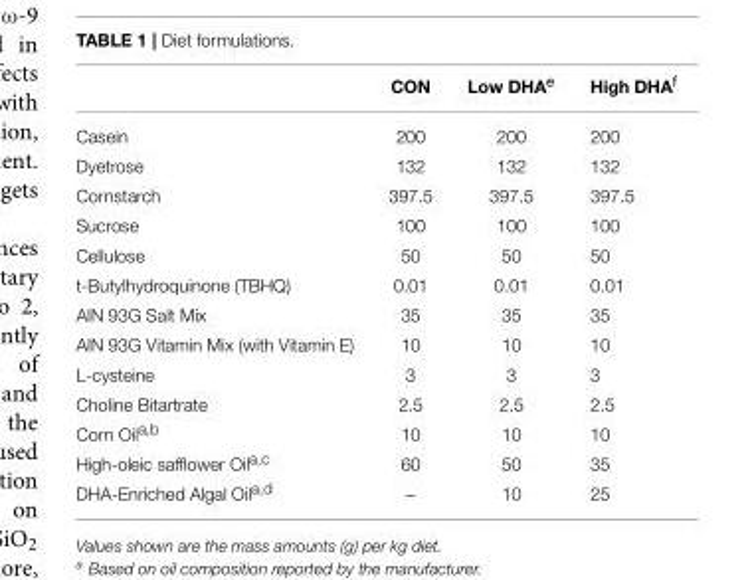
<table><thead><tr><td></td><td>CON</td><td>Low DHA<sup>e</sup></td><td>High DHA<sup>f</sup></td></tr></thead><tbody><tr><td>Casein</td><td>200</td><td>200</td><td>200</td></tr><tr><td>Dyetrose</td><td>132</td><td>132</td><td>132</td></tr><tr><td>Cornstarch</td><td>397.5</td><td>397.5</td><td>397.5</td></tr><tr><td>Sucrose</td><td>100</td><td>100</td><td>100</td></tr><tr><td>Cellulose</td><td>50</td><td>50</td><td>50</td></tr><tr><td>t-Butylhydroquinone (TBHQ)</td><td>0.01</td><td>0.01</td><td>0.01</td></tr><tr><td>AIN 93G Salt Mix</td><td>35</td><td>35</td><td>35</td></tr><tr><td>AIN 93G Vitamin Mix (with Vitamin E)</td><td>10</td><td>10</td><td>10</td></tr><tr><td>L-cysteine</td><td>3</td><td>3</td><td>3</td></tr><tr><td>Choline Bitartrate</td><td>2.5</td><td>2.5</td><td>2.5</td></tr><tr><td>Corn Oil<sup>a,b</sup></td><td>10</td><td>10</td><td>10</td></tr><tr><td>High-oleic safflower Oil<sup>a,c</sup></td><td>60</td><td>50</td><td>35</td></tr><tr><td>DHA-Enriched Algal Oil<sup>a,d</sup></td><td>–</td><td>10</td><td>25</td></tr></tbody></table>